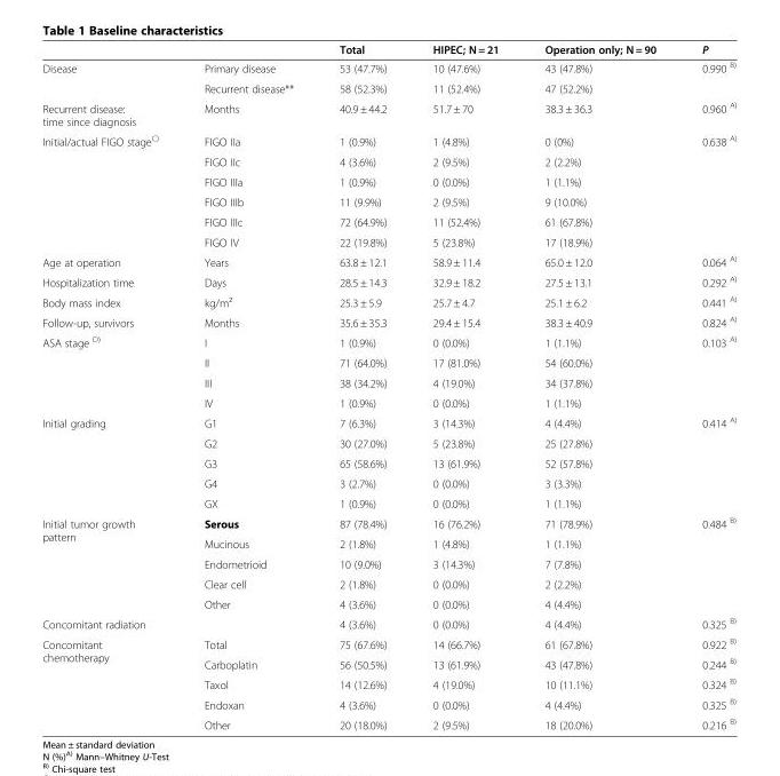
<table><thead><tr><td></td><td></td><td>Total</td><td>HIPEC; N = 21</td><td>Operation only; N = 90</td><td>P</td></tr></thead><tbody><tr><td rowspan="2">Disease</td><td>Primary disease</td><td>53 (47.7%)</td><td>10 (47.6%)</td><td>43 (47.8%)</td><td>0.990 <sup>B)</sup></td></tr><tr><td>Recurrent disease**</td><td>58 (52.3%)</td><td>11 (52.4%)</td><td>47 (52.2%)</td><td></td></tr><tr><td>Recurrent disease: time since diagnosis</td><td>Months</td><td>40.9 ± 44.2</td><td>51.7 ± 70</td><td>38.3 ± 36.3</td><td>0.960 <sup>A)</sup></td></tr><tr><td rowspan="6">Initial/actual FIGO stage<sup>C)</sup></td><td>FIGO IIa</td><td>1 (0.9%)</td><td>1 (4.8%)</td><td>0 (0%)</td><td>0.638 <sup>A)</sup></td></tr><tr><td>FIGO IIc</td><td>4 (3.6%)</td><td>2 (9.5%)</td><td>2 (2.2%)</td><td></td></tr><tr><td>FIGO IIIa</td><td>1 (0.9%)</td><td>0 (0.0%)</td><td>1 (1.1%)</td><td></td></tr><tr><td>FIGO IIIb</td><td>11 (9.9%)</td><td>2 (9.5%)</td><td>9 (10.0%)</td><td></td></tr><tr><td>FIGO IIIc</td><td>72 (64.9%)</td><td>11 (52.4%)</td><td>61 (67.8%)</td><td></td></tr><tr><td>FIGO IV</td><td>22 (19.8%)</td><td>5 (23.8%)</td><td>17 (18.9%)</td><td></td></tr><tr><td>Age at operation</td><td>Years</td><td>63.8 ± 12.1</td><td>58.9 ± 11.4</td><td>65.0 ± 12.0</td><td>0.064 <sup>A)</sup></td></tr><tr><td>Hospitalization time</td><td>Days</td><td>28.5 ± 14.3</td><td>32.9 ± 18.2</td><td>27.5 ± 13.1</td><td>0.292 <sup>A)</sup></td></tr><tr><td>Body mass index</td><td>kg/m²</td><td>25.3 ± 5.9</td><td>25.7 ± 4.7</td><td>25.1 ± 6.2</td><td>0.441 <sup>A)</sup></td></tr><tr><td>Follow-up, survivors</td><td>Months</td><td>35.6 ± 35.3</td><td>29.4 ± 15.4</td><td>38.3 ± 40.9</td><td>0.824 <sup>A)</sup></td></tr><tr><td rowspan="4">ASA stage <sup>D)</sup></td><td>I</td><td>1 (0.9%)</td><td>0 (0.0%)</td><td>1 (1.1%)</td><td>0.103 <sup>A)</sup></td></tr><tr><td>II</td><td>71 (64.0%)</td><td>17 (81.0%)</td><td>54 (60.0%)</td><td></td></tr><tr><td>III</td><td>38 (34.2%)</td><td>4 (19.0%)</td><td>34 (37.8%)</td><td></td></tr><tr><td>IV</td><td>1 (0.9%)</td><td>0 (0.0%)</td><td>1 (1.1%)</td><td></td></tr><tr><td rowspan="5">Initial grading</td><td>G1</td><td>7 (6.3%)</td><td>3 (14.3%)</td><td>4 (4.4%)</td><td>0.414 <sup>A)</sup></td></tr><tr><td>G2</td><td>30 (27.0%)</td><td>5 (23.8%)</td><td>25 (27.8%)</td><td></td></tr><tr><td>G3</td><td>65 (58.6%)</td><td>13 (61.9%)</td><td>52 (57.8%)</td><td></td></tr><tr><td>G4</td><td>3 (2.7%)</td><td>0 (0.0%)</td><td>3 (3.3%)</td><td></td></tr><tr><td>GX</td><td>1 (0.9%)</td><td>0 (0.0%)</td><td>1 (1.1%)</td><td></td></tr><tr><td rowspan="5">Initial tumor growth pattern</td><td>Serous</td><td>87 (78.4%)</td><td>16 (76.2%)</td><td>71 (78.9%)</td><td>0.484 <sup>B)</sup></td></tr><tr><td>Mucinous</td><td>2 (1.8%)</td><td>1 (4.8%)</td><td>1 (1.1%)</td><td></td></tr><tr><td>Endometrioid</td><td>10 (9.0%)</td><td>3 (14.3%)</td><td>7 (7.8%)</td><td></td></tr><tr><td>Clear cell</td><td>2 (1.8%)</td><td>0 (0.0%)</td><td>2 (2.2%)</td><td></td></tr><tr><td>Other</td><td>4 (3.6%)</td><td>0 (0.0%)</td><td>4 (4.4%)</td><td></td></tr><tr><td>Concomitant radiation</td><td></td><td>4 (3.6%)</td><td>0 (0.0%)</td><td>4 (4.4%)</td><td>0.325 <sup>B)</sup></td></tr><tr><td rowspan="5">Concomitant chemotherapy</td><td>Total</td><td>75 (67.6%)</td><td>14 (66.7%)</td><td>61 (67.8%)</td><td>0.922 <sup>B)</sup></td></tr><tr><td>Carboplatin</td><td>56 (50.5%)</td><td>13 (61.9%)</td><td>43 (47.8%)</td><td>0.244 <sup>B)</sup></td></tr><tr><td>Taxol</td><td>14 (12.6%)</td><td>4 (19.0%)</td><td>10 (11.1%)</td><td>0.324 <sup>B)</sup></td></tr><tr><td>Endoxan</td><td>4 (3.6%)</td><td>0 (0.0%)</td><td>4 (4.4%)</td><td>0.325 <sup>B)</sup></td></tr><tr><td>Other</td><td>20 (18.0%)</td><td>2 (9.5%)</td><td>18 (20.0%)</td><td>0.216 <sup>B)</sup></td></tr></tbody></table>